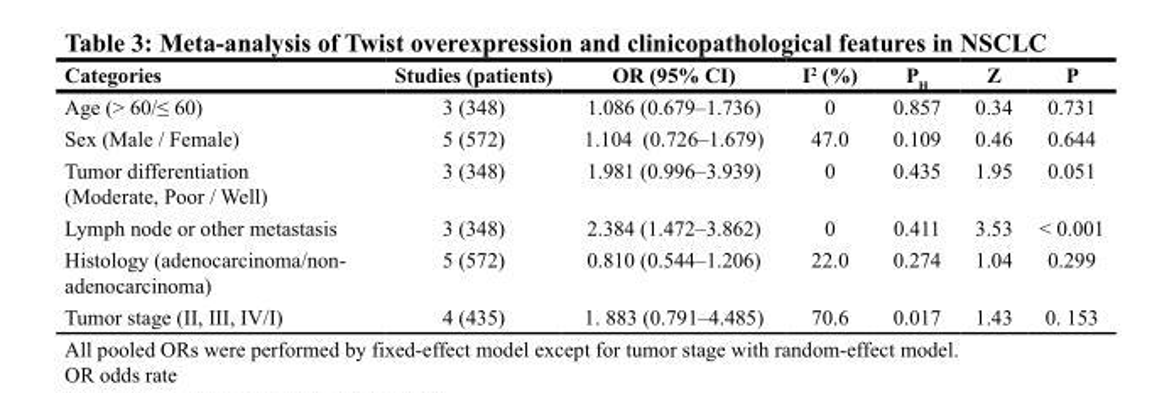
<table><thead><tr><td>Categories</td><td>Studies (patients)</td><td>OR (95% CI)</td><td>I<sup>2</sup> (%)</td><td>P<sub>H</sub></td><td>Z</td><td>P</td></tr></thead><tbody><tr><td>Age (&gt; 60/≤ 60)</td><td>3 (348)</td><td>1.086 (0.679–1.736)</td><td>0</td><td>0.857</td><td>0.34</td><td>0.731</td></tr><tr><td>Sex (Male / Female)</td><td>5 (572)</td><td>1.104 (0.726–1.679)</td><td>47.0</td><td>0.109</td><td>0.46</td><td>0.644</td></tr><tr><td>Tumor differentiation (Moderate, Poor / Well)</td><td>3 (348)</td><td>1.981 (0.996–3.939)</td><td>0</td><td>0.435</td><td>1.95</td><td>0.051</td></tr><tr><td>Lymph node or other metastasis</td><td>3 (348)</td><td>2.384 (1.472–3.862)</td><td>0</td><td>0.411</td><td>3.53</td><td>&lt; 0.001</td></tr><tr><td>Histology (adenocarcinoma/non- adenocarcinoma)</td><td>5 (572)</td><td>0.810 (0.544–1.206)</td><td>22.0</td><td>0.274</td><td>1.04</td><td>0.299</td></tr><tr><td>Tumor stage (II, III, IV/I)</td><td>4 (435)</td><td>1. 883 (0.791–4.485)</td><td>70.6</td><td>0.017</td><td>1.43</td><td>0. 153</td></tr></tbody></table>